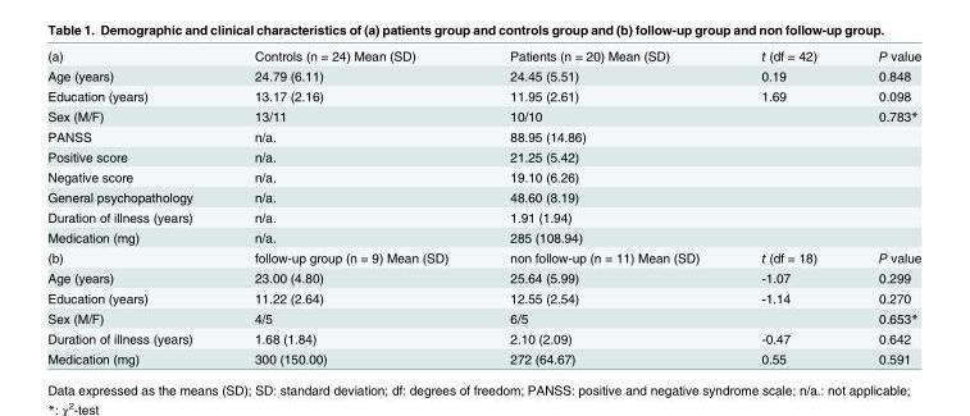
<table><tbody><tr><td>(a)</td><td>Controls (n = 24) Mean (SD)</td><td>Patients (n = 20) Mean (SD)</td><td>t (df = 42)</td><td>P value</td></tr><tr><td>Age (years)</td><td>24.79 (6.11)</td><td>24.45 (5.51)</td><td>0.19</td><td>0.848</td></tr><tr><td>Education (years)</td><td>13.17 (2.16)</td><td>11.95 (2.61)</td><td>1.69</td><td>0.098</td></tr><tr><td>Sex (M/F)</td><td>13/11</td><td>10/10</td><td></td><td>0.783*</td></tr><tr><td>PANSS</td><td>n/a.</td><td>88.95 (14.86)</td><td></td><td></td></tr><tr><td>Positive score</td><td>n/a.</td><td>21.25 (5.42)</td><td></td><td></td></tr><tr><td>Negative score</td><td>n/a.</td><td>19.10 (6.26)</td><td></td><td></td></tr><tr><td>General psychopathology</td><td>n/a.</td><td>48.60 (8.19)</td><td></td><td></td></tr><tr><td>Duration of illness (years)</td><td>n/a.</td><td>1.91 (1.94)</td><td></td><td></td></tr><tr><td>Medication (mg)</td><td>n/a.</td><td>285 (108.94)</td><td></td><td></td></tr><tr><td>(b)</td><td>follow-up group (n = 9) Mean (SD)</td><td>non follow-up (n = 11) Mean (SD)</td><td>t (df = 18)</td><td>P value</td></tr><tr><td>Age (years)</td><td>23.00 (4.80)</td><td>25.64 (5.99)</td><td>-1.07</td><td>0.299</td></tr><tr><td>Education (years)</td><td>11.22 (2.64)</td><td>12.55 (2.54)</td><td>-1.14</td><td>0.270</td></tr><tr><td>Sex (M/F)</td><td>4/5</td><td>6/5</td><td></td><td>0.653*</td></tr><tr><td>Duration of illness (years)</td><td>1.68 (1.84)</td><td>2.10 (2.09)</td><td>-0.47</td><td>0.642</td></tr><tr><td>Medication (mg)</td><td>300 (150.00)</td><td>272 (64.67)</td><td>0.55</td><td>0.591</td></tr></tbody></table>